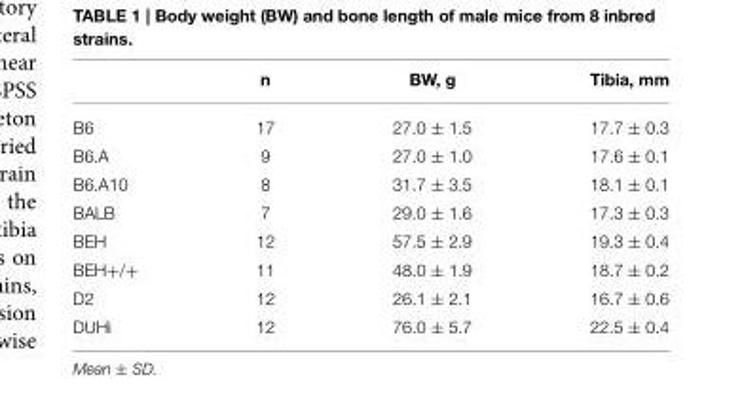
<table><thead><tr><td></td><td>n</td><td>BW, g</td><td>Tibia, mm</td></tr></thead><tbody><tr><td>B6</td><td>17</td><td>27.0 ± 1.5</td><td>17.7 ± 0.3</td></tr><tr><td>B6.A</td><td>9</td><td>27.0 ± 1.0</td><td>17.6 ± 0.1</td></tr><tr><td>B6.A10</td><td>8</td><td>31.7 ± 3.5</td><td>18.1 ± 0.1</td></tr><tr><td>BALB</td><td>7</td><td>29.0 ± 1.6</td><td>17.3 ± 0.3</td></tr><tr><td>BEH</td><td>12</td><td>57.5 ± 2.9</td><td>19.3 ± 0.4</td></tr><tr><td>BEH+/+</td><td>11</td><td>48.0 ± 1.9</td><td>18.7 ± 0.2</td></tr><tr><td>D2</td><td>12</td><td>26.1 ± 2.1</td><td>16.7 ± 0.6</td></tr><tr><td>DUHi</td><td>12</td><td>76.0 ± 5.7</td><td>22.5 ± 0.4</td></tr></tbody></table>